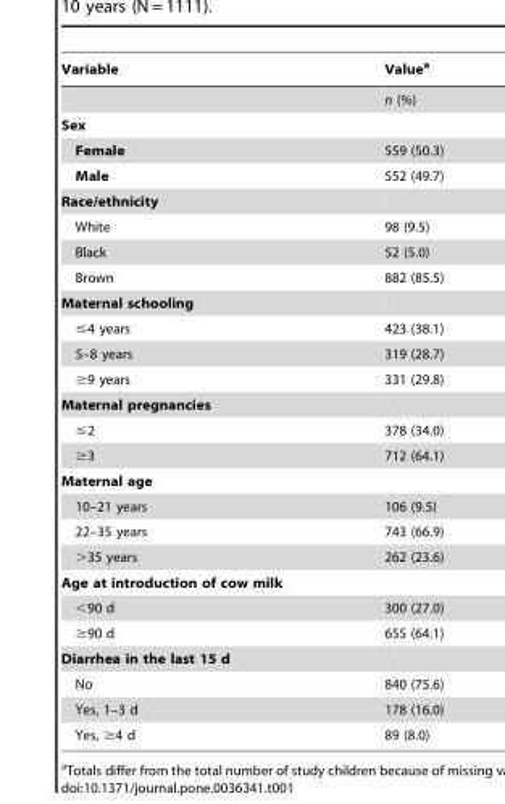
<table><thead><tr><td>Variable</td><td>Value<sup>a</sup></td></tr></thead><tbody><tr><td></td><td>n (%)</td></tr><tr><td colspan="2">Sex</td></tr><tr><td>Female</td><td>559 (50.3)</td></tr><tr><td>Male</td><td>552 (49.7)</td></tr><tr><td colspan="2">Race/ethnicity</td></tr><tr><td>White</td><td>98 (9.5)</td></tr><tr><td>Black</td><td>52 (5.0)</td></tr><tr><td>Brown</td><td>882 (85.5)</td></tr><tr><td colspan="2">Maternal schooling</td></tr><tr><td>≤4 years</td><td>423 (38.1)</td></tr><tr><td>5–8 years</td><td>319 (28.7)</td></tr><tr><td>≥9 years</td><td>331 (29.8)</td></tr><tr><td colspan="2">Maternal pregnancies</td></tr><tr><td>≤2</td><td>378 (34.0)</td></tr><tr><td>≥3</td><td>712 (64.1)</td></tr><tr><td colspan="2">Maternal age</td></tr><tr><td>10–21 years</td><td>106 (9.5)</td></tr><tr><td>22–35 years</td><td>743 (66.9)</td></tr><tr><td>&gt;35 years</td><td>262 (23.6)</td></tr><tr><td colspan="2">Age at introduction of cow milk</td></tr><tr><td>&lt;90 d</td><td>300 (27.0)</td></tr><tr><td>≥90 d</td><td>655 (64.1)</td></tr><tr><td colspan="2">Diarrhea in the last 15 d</td></tr><tr><td>No</td><td>840 (75.6)</td></tr><tr><td>Yes, 1–3 d</td><td>178 (16.0)</td></tr><tr><td>Yes, ≥4 d</td><td>89 (8.0)</td></tr></tbody></table>